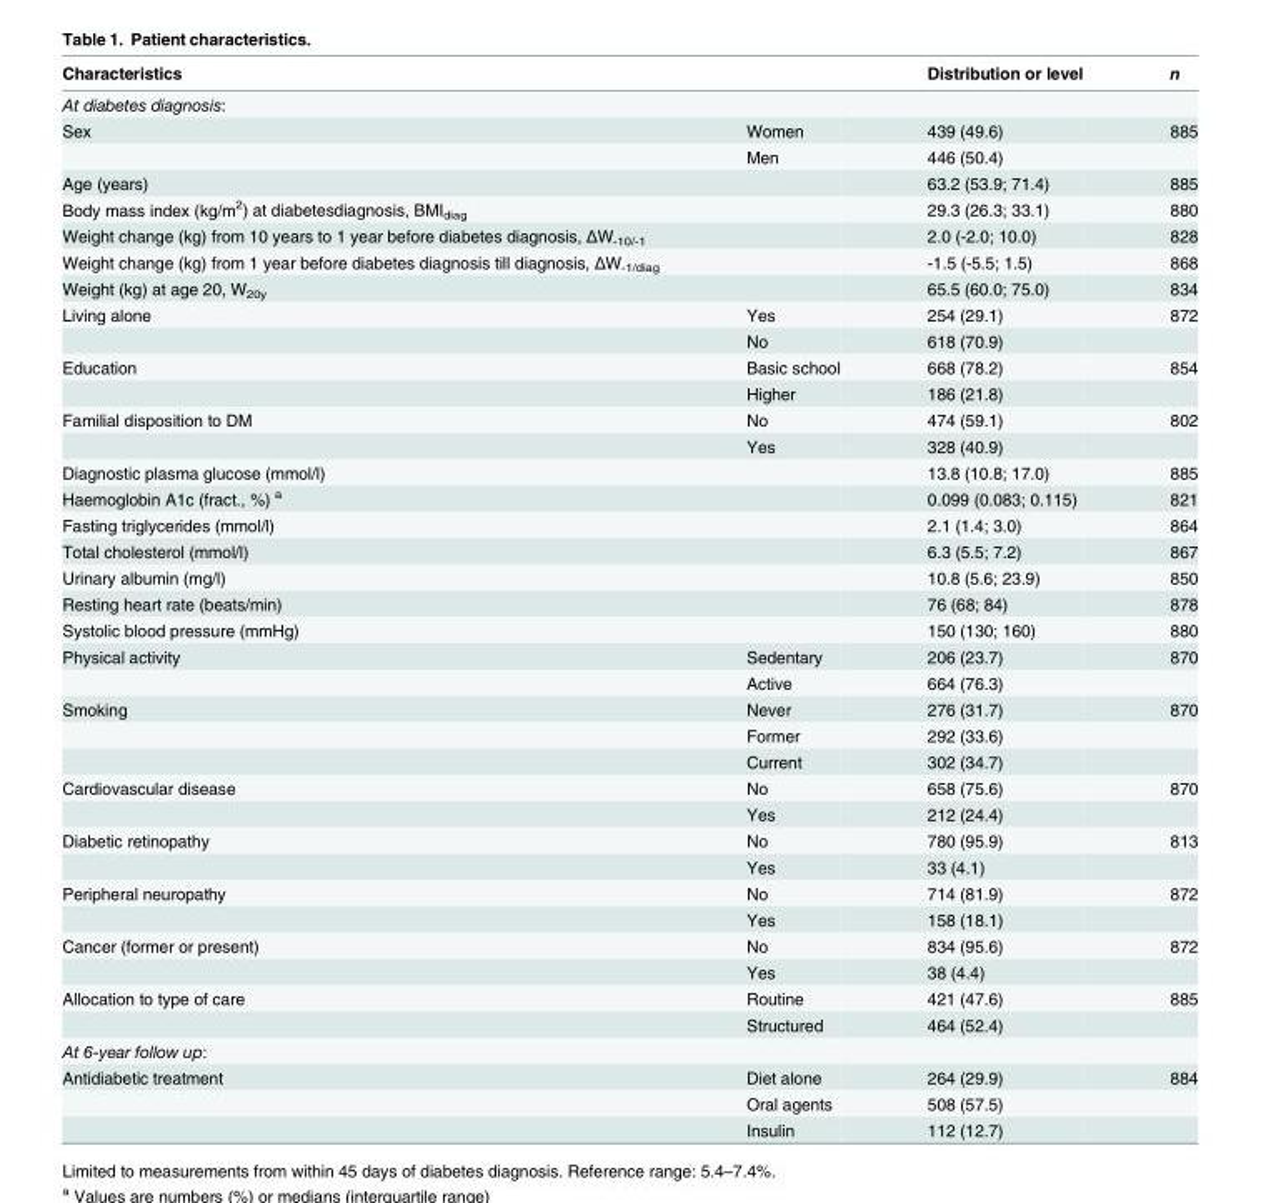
<table><thead><tr><td>Characteristics</td><td></td><td>Distribution or level</td><td>n</td></tr></thead><tbody><tr><td colspan="4">At diabetes diagnosis:</td></tr><tr><td rowspan="2">Sex</td><td>Women</td><td>439 (49.6)</td><td>885</td></tr><tr><td>Men</td><td>446 (50.4)</td><td></td></tr><tr><td>Age (years)</td><td></td><td>63.2 (53.9; 71.4)</td><td>885</td></tr><tr><td>Body mass index (kg/m<sup>2</sup>) at diabetesdiagnosis, BMI<sub>diag</sub></td><td></td><td>29.3 (26.3; 33.1)</td><td>880</td></tr><tr><td>Weight change (kg) from 10 years to 1 year before diabetes diagnosis, ΔW<sub>-10/-1</sub></td><td></td><td>2.0 (-2.0; 10.0)</td><td>828</td></tr><tr><td>Weight change (kg) from 1 year before diabetes diagnosis till diagnosis, ΔW<sub>-1/diag</sub></td><td></td><td>-1.5 (-5.5; 1.5)</td><td>868</td></tr><tr><td>Weight (kg) at age 20, W<sub>20y</sub></td><td></td><td>65.5 (60.0; 75.0)</td><td>834</td></tr><tr><td rowspan="2">Living alone</td><td>Yes</td><td>254 (29.1)</td><td>872</td></tr><tr><td>No</td><td>618 (70.9)</td><td></td></tr><tr><td rowspan="2">Education</td><td>Basic school</td><td>668 (78.2)</td><td>854</td></tr><tr><td>Higher</td><td>186 (21.8)</td><td></td></tr><tr><td rowspan="2">Familial disposition to DM</td><td>No</td><td>474 (59.1)</td><td>802</td></tr><tr><td>Yes</td><td>328 (40.9)</td><td></td></tr><tr><td>Diagnostic plasma glucose (mmol/l)</td><td></td><td>13.8 (10.8; 17.0)</td><td>885</td></tr><tr><td>Haemoglobin A1c (fract., %) <sup>a</sup></td><td></td><td>0.099 (0.083; 0.115)</td><td>821</td></tr><tr><td>Fasting triglycerides (mmol/l)</td><td></td><td>2.1 (1.4; 3.0)</td><td>864</td></tr><tr><td>Total cholesterol (mmol/l)</td><td></td><td>6.3 (5.5; 7.2)</td><td>867</td></tr><tr><td>Urinary albumin (mg/l)</td><td></td><td>10.8 (5.6; 23.9)</td><td>850</td></tr><tr><td>Resting heart rate (beats/min)</td><td></td><td>76 (68; 84)</td><td>878</td></tr><tr><td>Systolic blood pressure (mmHg)</td><td></td><td>150 (130; 160)</td><td>880</td></tr><tr><td rowspan="2">Physical activity</td><td>Sedentary</td><td>206 (23.7)</td><td>870</td></tr><tr><td>Active</td><td>664 (76.3)</td><td></td></tr><tr><td rowspan="3">Smoking</td><td>Never</td><td>276 (31.7)</td><td>870</td></tr><tr><td>Former</td><td>292 (33.6)</td><td></td></tr><tr><td>Current</td><td>302 (34.7)</td><td></td></tr><tr><td rowspan="2">Cardiovascular disease</td><td>No</td><td>658 (75.6)</td><td>870</td></tr><tr><td>Yes</td><td>212 (24.4)</td><td></td></tr><tr><td rowspan="2">Diabetic retinopathy</td><td>No</td><td>780 (95.9)</td><td>813</td></tr><tr><td>Yes</td><td>33 (4.1)</td><td></td></tr><tr><td rowspan="2">Peripheral neuropathy</td><td>No</td><td>714 (81.9)</td><td>872</td></tr><tr><td>Yes</td><td>158 (18.1)</td><td></td></tr><tr><td rowspan="2">Cancer (former or present)</td><td>No</td><td>834 (95.6)</td><td>872</td></tr><tr><td>Yes</td><td>38 (4.4)</td><td></td></tr><tr><td rowspan="2">Allocation to type of care</td><td>Routine</td><td>421 (47.6)</td><td>885</td></tr><tr><td>Structured</td><td>464 (52.4)</td><td></td></tr><tr><td colspan="4">At 6-year follow up:</td></tr><tr><td rowspan="3">Antidiabetic treatment</td><td>Diet alone</td><td>264 (29.9)</td><td>884</td></tr><tr><td>Oral agents</td><td>508 (57.5)</td><td></td></tr><tr><td>Insulin</td><td>112 (12.7)</td><td></td></tr></tbody></table>